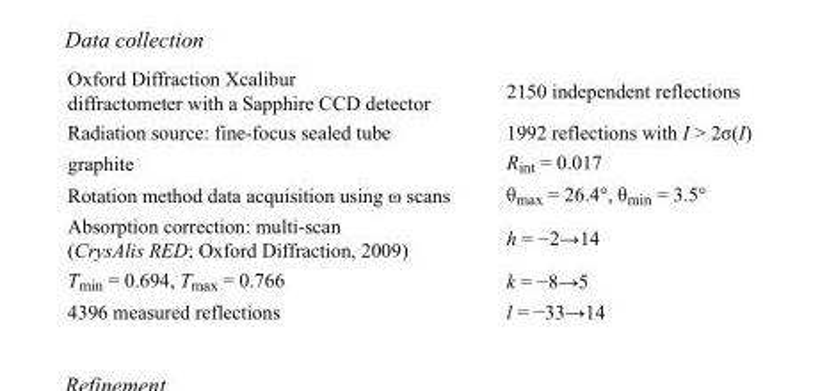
<table><tbody><tr><td>Oxford Diffraction Xcalibur diffractometer with a Sapphire CCD detector</td><td>2150 independent reflections</td></tr><tr><td>Radiation source: fine-focus sealed tube</td><td>1992 reflections with I &gt; 2σ(I)</td></tr><tr><td>graphite</td><td>R<sub>int</sub> = 0.017</td></tr><tr><td>Rotation method data acquisition using ω scans</td><td>θ<sub>max</sub> = 26.4°, θ<sub>min</sub> = 3.5°</td></tr><tr><td>Absorption correction: multi-scan (CrysAlis RED; Oxford Diffraction, 2009)</td><td>h = −2→14</td></tr><tr><td>T<sub>min</sub> = 0.694, T<sub>max</sub> = 0.766</td><td>k = −8→5</td></tr><tr><td>4396 measured reflections</td><td>l = −33→14</td></tr></tbody></table>